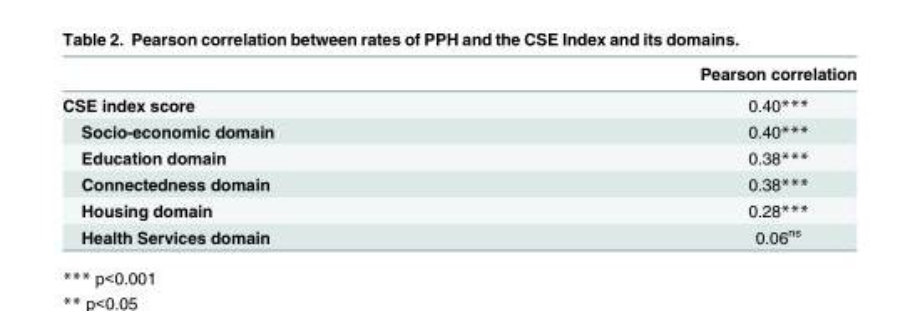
<table><thead><tr><td></td><td>Pearson correlation</td></tr></thead><tbody><tr><td>CSE index score</td><td>0.40***</td></tr><tr><td>Socio-economic domain</td><td>0.40***</td></tr><tr><td>Education domain</td><td>0.38***</td></tr><tr><td>Connectedness domain</td><td>0.38***</td></tr><tr><td>Housing domain</td><td>0.28***</td></tr><tr><td>Health Services domain</td><td>0.06<sup>ns</sup></td></tr></tbody></table>